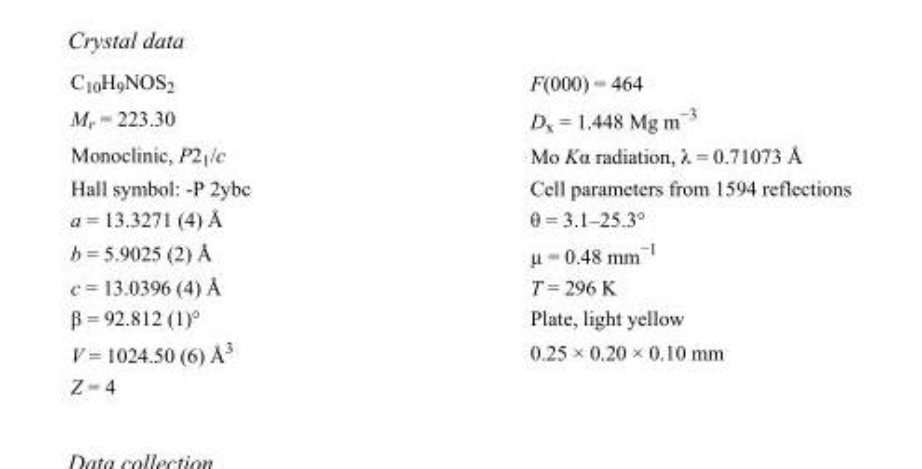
<table><tbody><tr><td>C<sub>10</sub>H<sub>9</sub>NOS<sub>2</sub></td><td>F(000) = 464</td></tr><tr><td>M<sub>r</sub> = 223.30</td><td>D<sub>x</sub> = 1.448 Mg m<sup>−3</sup></td></tr><tr><td>Monoclinic, P2<sub>1</sub>/c</td><td>Mo Kα radiation, λ = 0.71073 Å</td></tr><tr><td>Hall symbol: -P 2ybc</td><td>Cell parameters from 1594 reflections</td></tr><tr><td>a = 13.3271 (4) Å</td><td>θ = 3.1–25.3°</td></tr><tr><td>b = 5.9025 (2) Å</td><td>µ = 0.48 mm<sup>−1</sup></td></tr><tr><td>c = 13.0396 (4) Å</td><td>T = 296 K</td></tr><tr><td>β = 92.812 (1)°</td><td>Plate, light yellow</td></tr><tr><td>V = 1024.50 (6) Å<sup>3</sup></td><td>0.25 × 0.20 × 0.10 mm</td></tr><tr><td>Z = 4</td><td></td></tr></tbody></table>